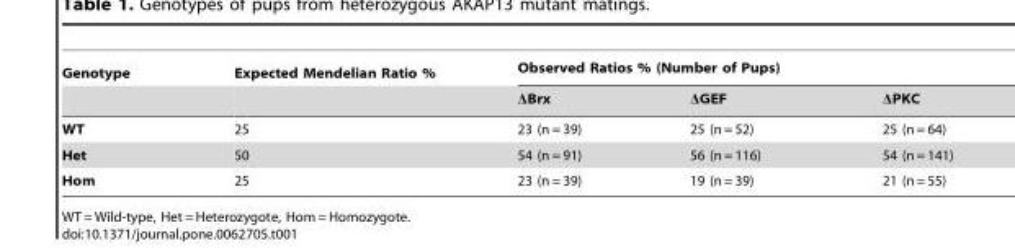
<table><thead><tr><td rowspan="2">Genotype</td><td rowspan="2">Expected Mendelian Ratio %</td><td colspan="3">Observed Ratios % (Number of Pups)</td></tr><tr><td>ΔBrx</td><td>ΔGEF</td><td>ΔPKC</td></tr></thead><tbody><tr><td>WT</td><td>25</td><td>23 (n = 39)</td><td>25 (n = 52)</td><td>25 (n = 64)</td></tr><tr><td>Het</td><td>50</td><td>54 (n = 91)</td><td>56 (n = 116)</td><td>54 (n = 141)</td></tr><tr><td>Hom</td><td>25</td><td>23 (n = 39)</td><td>19 (n = 39)</td><td>21 (n = 55)</td></tr></tbody></table>